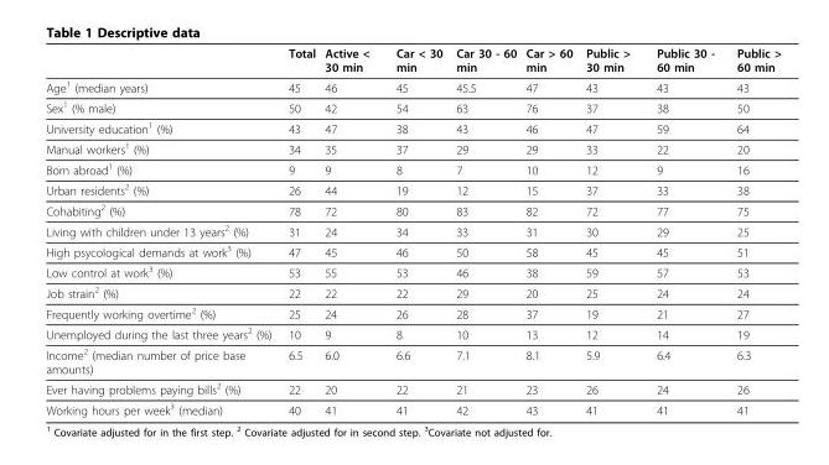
<table><thead><tr><td></td><td>Total</td><td>Active &lt; 30 min</td><td>Car &lt; 30 min</td><td>Car 30 - 60 min</td><td>Car &gt; 60 min</td><td>Public &gt; 30 min</td><td>Public 30 - 60 min</td><td>Public &gt; 60 min</td></tr></thead><tbody><tr><td>Age<sup>1</sup> (median years)</td><td>45</td><td>46</td><td>45</td><td>45.5</td><td>47</td><td>43</td><td>43</td><td>43</td></tr><tr><td>Sex<sup>1</sup> (% male)</td><td>50</td><td>42</td><td>54</td><td>63</td><td>76</td><td>37</td><td>38</td><td>50</td></tr><tr><td>University education<sup>1</sup> (%)</td><td>43</td><td>47</td><td>38</td><td>43</td><td>46</td><td>47</td><td>59</td><td>64</td></tr><tr><td>Manual workers<sup>1</sup> (%)</td><td>34</td><td>35</td><td>37</td><td>29</td><td>29</td><td>33</td><td>22</td><td>20</td></tr><tr><td>Born abroad<sup>1</sup> (%)</td><td>9</td><td>9</td><td>8</td><td>7</td><td>10</td><td>12</td><td>9</td><td>16</td></tr><tr><td>Urban residents<sup>2</sup> (%)</td><td>26</td><td>44</td><td>19</td><td>12</td><td>15</td><td>37</td><td>33</td><td>38</td></tr><tr><td>Cohabiting<sup>2</sup> (%)</td><td>78</td><td>72</td><td>80</td><td>83</td><td>82</td><td>72</td><td>77</td><td>75</td></tr><tr><td>Living with children under 13 years<sup>2</sup> (%)</td><td>31</td><td>24</td><td>34</td><td>33</td><td>31</td><td>30</td><td>29</td><td>25</td></tr><tr><td>High psycological demands at work<sup>3</sup> (%)</td><td>47</td><td>45</td><td>46</td><td>50</td><td>58</td><td>45</td><td>45</td><td>51</td></tr><tr><td>Low control at work<sup>3</sup> (%)</td><td>53</td><td>55</td><td>53</td><td>46</td><td>38</td><td>59</td><td>57</td><td>53</td></tr><tr><td>Job strain<sup>2</sup> (%)</td><td>22</td><td>22</td><td>22</td><td>29</td><td>20</td><td>25</td><td>24</td><td>24</td></tr><tr><td>Frequently working overtime<sup>2</sup> (%)</td><td>25</td><td>24</td><td>26</td><td>28</td><td>37</td><td>19</td><td>21</td><td>27</td></tr><tr><td>Unemployed during the last three years<sup>2</sup> (%)</td><td>10</td><td>9</td><td>8</td><td>10</td><td>13</td><td>12</td><td>14</td><td>19</td></tr><tr><td>Income<sup>2</sup> (median number of price base amounts)</td><td>6.5</td><td>6.0</td><td>6.6</td><td>7.1</td><td>8.1</td><td>5.9</td><td>6.4</td><td>6.3</td></tr><tr><td>Ever having problems paying bills<sup>2</sup> (%)</td><td>22</td><td>20</td><td>22</td><td>21</td><td>23</td><td>26</td><td>24</td><td>26</td></tr><tr><td>Working hours per week<sup>3</sup> (median)</td><td>40</td><td>41</td><td>41</td><td>42</td><td>43</td><td>41</td><td>41</td><td>41</td></tr></tbody></table>